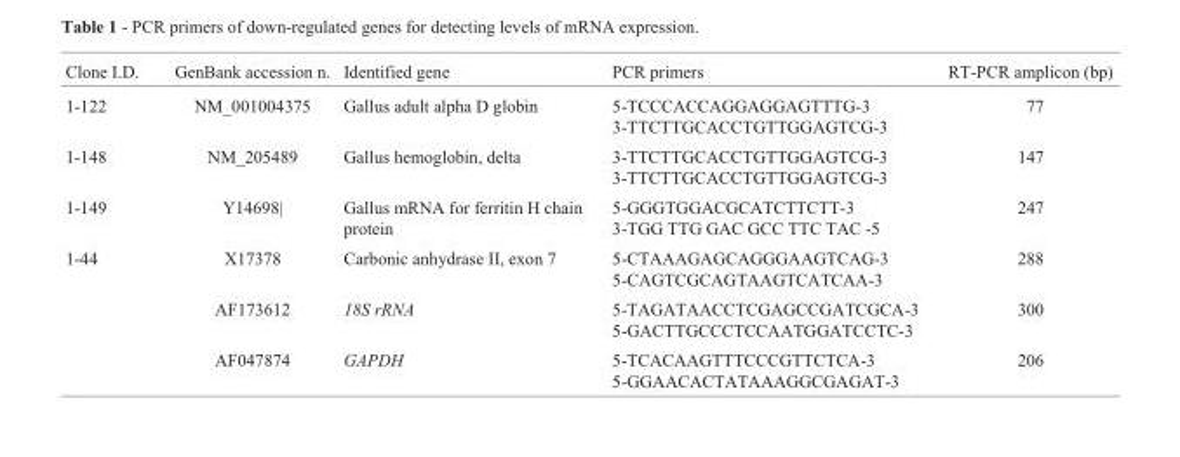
<table><thead><tr><td>Clone I.D.</td><td>GenBank accession n.</td><td>Identified gene</td><td>PCR primers</td><td>RT-PCR amplicon (bp)</td></tr></thead><tbody><tr><td>1-122</td><td>NM_001004375</td><td>Gallus adult alpha D globin</td><td>5-TCCCACCAGGAGGAGTTTG-3 3-TTCTTGCACCTGTTGGAGTCG-3</td><td>77</td></tr><tr><td>1-148</td><td>NM_205489</td><td>Gallus hemoglobin, delta</td><td>3-TTCTTGCACCTGTTGGAGTCG-3 3-TTCTTGCACCTGTTGGAGTCG-3</td><td>147</td></tr><tr><td>1-149</td><td>Y14698|</td><td>Gallus mRNA for ferritin H chain protein</td><td>5-GGGTGGACGCATCTTCTT-3 3-TGG TTG GAC GCC TTC TAC -5</td><td>247</td></tr><tr><td rowspan="3">1-44</td><td>X17378</td><td>Carbonic anhydrase II, exon 7</td><td>5-CTAAAGAGCAGGGAAGTCAG-3 5-CAGTCGCAGTAAGTCATCAA-3</td><td>288</td></tr><tr><td>AF173612</td><td>18S rRNA</td><td>5-TAGATAACCTCGAGCCGATCGCA-3 5-GACTTGCCCTCCAATGGATCCTC-3</td><td>300</td></tr><tr><td>AF047874</td><td>GAPDH</td><td>5-TCACAAGTTTCCCGTTCTCA-3 5-GGAACACTATAAAGGCGAGAT-3</td><td>206</td></tr></tbody></table>